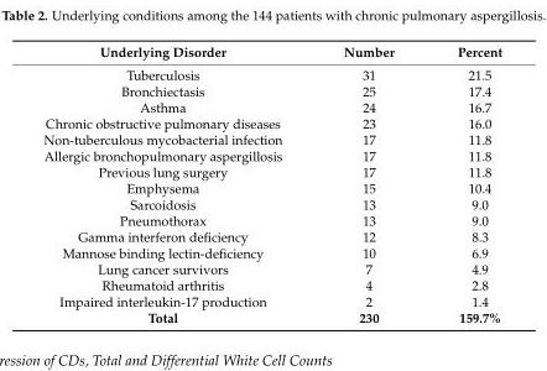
<table><thead><tr><td>Underlying Disorder</td><td>Number</td><td>Percent</td></tr></thead><tbody><tr><td>Tuberculosis</td><td>31</td><td>21.5</td></tr><tr><td>Bronchiectasis</td><td>25</td><td>17.4</td></tr><tr><td>Asthma</td><td>24</td><td>16.7</td></tr><tr><td>Chronic obstructive pulmonary diseases</td><td>23</td><td>16.0</td></tr><tr><td>Non-tuberculous mycobacterial infection</td><td>17</td><td>11.8</td></tr><tr><td>Allergic bronchopulmonary aspergillosis</td><td>17</td><td>11.8</td></tr><tr><td>Previous lung surgery</td><td>17</td><td>11.8</td></tr><tr><td>Emphysema</td><td>15</td><td>10.4</td></tr><tr><td>Sarcoidosis</td><td>13</td><td>9.0</td></tr><tr><td>Pneumothorax</td><td>13</td><td>9.0</td></tr><tr><td>Gamma interferon deficiency</td><td>12</td><td>8.3</td></tr><tr><td>Mannose binding lectin-deficiency</td><td>10</td><td>6.9</td></tr><tr><td>Lung cancer survivors</td><td>7</td><td>4.9</td></tr><tr><td>Rheumatoid arthritis</td><td>4</td><td>2.8</td></tr><tr><td>Impaired interleukin-17 production</td><td>2</td><td>1.4</td></tr><tr><td>Total</td><td>230</td><td>159.7%</td></tr></tbody></table>